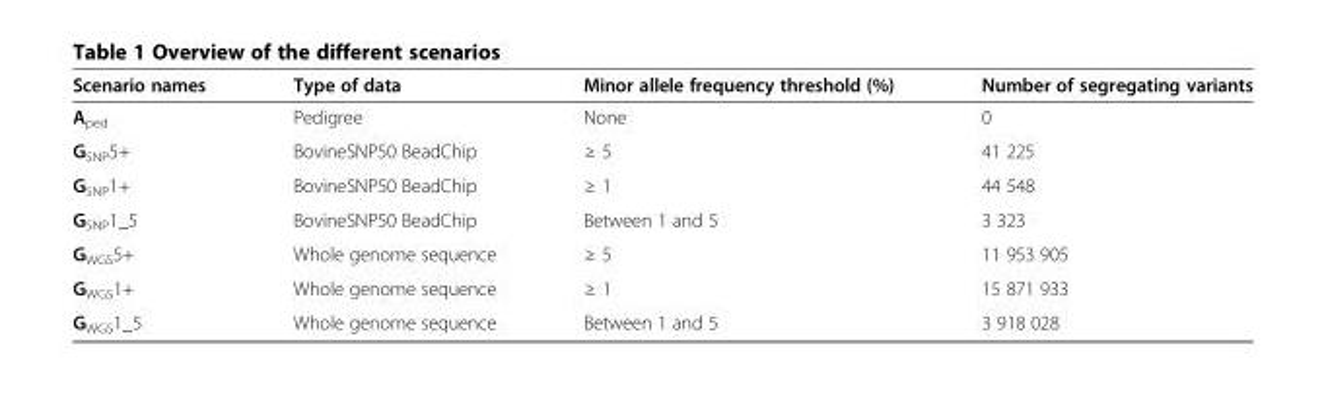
<table><thead><tr><td>Scenario names</td><td>Type of data</td><td>Minor allele frequency threshold (%)</td><td>Number of segregating variants</td></tr></thead><tbody><tr><td>A<sub>ped</sub></td><td>Pedigree</td><td>None</td><td>0</td></tr><tr><td>G<sub>SNP</sub>5+</td><td>BovineSNP50 BeadChip</td><td>≥ 5</td><td>41 225</td></tr><tr><td>G<sub>SNP</sub>1+</td><td>BovineSNP50 BeadChip</td><td>≥ 1</td><td>44 548</td></tr><tr><td>G<sub>SNP</sub>1_5</td><td>BovineSNP50 BeadChip</td><td>Between 1 and 5</td><td>3 323</td></tr><tr><td>G<sub>WGS</sub>5+</td><td>Whole genome sequence</td><td>≥ 5</td><td>11 953 905</td></tr><tr><td>G<sub>WGS</sub>1+</td><td>Whole genome sequence</td><td>≥ 1</td><td>15 871 933</td></tr><tr><td>G<sub>WGS</sub>1_5</td><td>Whole genome sequence</td><td>Between 1 and 5</td><td>3 918 028</td></tr></tbody></table>